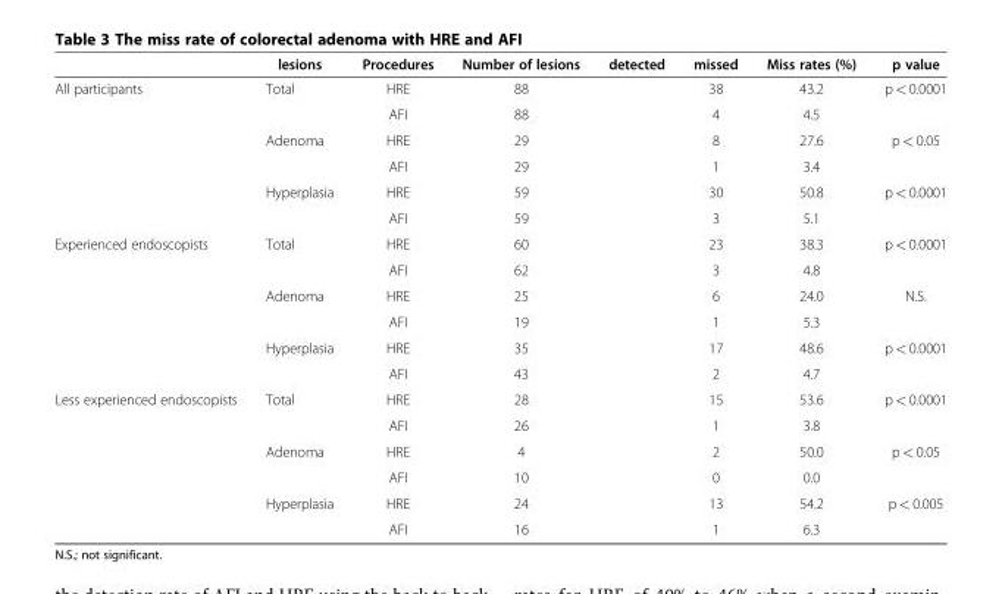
<table><thead><tr><td></td><td>lesions</td><td>Procedures</td><td>Number of lesions</td><td>detected</td><td>missed</td><td>Miss rates (%)</td><td>p value</td></tr></thead><tbody><tr><td rowspan="6">All participants</td><td>Total</td><td>HRE</td><td>88</td><td></td><td>38</td><td>43.2</td><td>p &lt; 0.0001</td></tr><tr><td></td><td>AFI</td><td>88</td><td></td><td>4</td><td>4.5</td><td></td></tr><tr><td>Adenoma</td><td>HRE</td><td>29</td><td></td><td>8</td><td>27.6</td><td>p &lt; 0.05</td></tr><tr><td></td><td>AFI</td><td>29</td><td></td><td>1</td><td>3.4</td><td></td></tr><tr><td>Hyperplasia</td><td>HRE</td><td>59</td><td></td><td>30</td><td>50.8</td><td>p &lt; 0.0001</td></tr><tr><td></td><td>AFI</td><td>59</td><td></td><td>3</td><td>5.1</td><td></td></tr><tr><td rowspan="6">Experienced endoscopists</td><td>Total</td><td>HRE</td><td>60</td><td></td><td>23</td><td>38.3</td><td>p &lt; 0.0001</td></tr><tr><td></td><td>AFI</td><td>62</td><td></td><td>3</td><td>4.8</td><td></td></tr><tr><td>Adenoma</td><td>HRE</td><td>25</td><td></td><td>6</td><td>24.0</td><td>N.S.</td></tr><tr><td></td><td>AFI</td><td>19</td><td></td><td>1</td><td>5.3</td><td></td></tr><tr><td>Hyperplasia</td><td>HRE</td><td>35</td><td></td><td>17</td><td>48.6</td><td>p &lt; 0.0001</td></tr><tr><td></td><td>AFI</td><td>43</td><td></td><td>2</td><td>4.7</td><td></td></tr><tr><td rowspan="6">Less experienced endoscopists</td><td>Total</td><td>HRE</td><td>28</td><td></td><td>15</td><td>53.6</td><td>p &lt; 0.0001</td></tr><tr><td></td><td>AFI</td><td>26</td><td></td><td>1</td><td>3.8</td><td></td></tr><tr><td>Adenoma</td><td>HRE</td><td>4</td><td></td><td>2</td><td>50.0</td><td>p &lt; 0.05</td></tr><tr><td></td><td>AFI</td><td>10</td><td></td><td>0</td><td>0.0</td><td></td></tr><tr><td>Hyperplasia</td><td>HRE</td><td>24</td><td></td><td>13</td><td>54.2</td><td>p &lt; 0.005</td></tr><tr><td></td><td>AFI</td><td>16</td><td></td><td>1</td><td>6.3</td><td></td></tr></tbody></table>